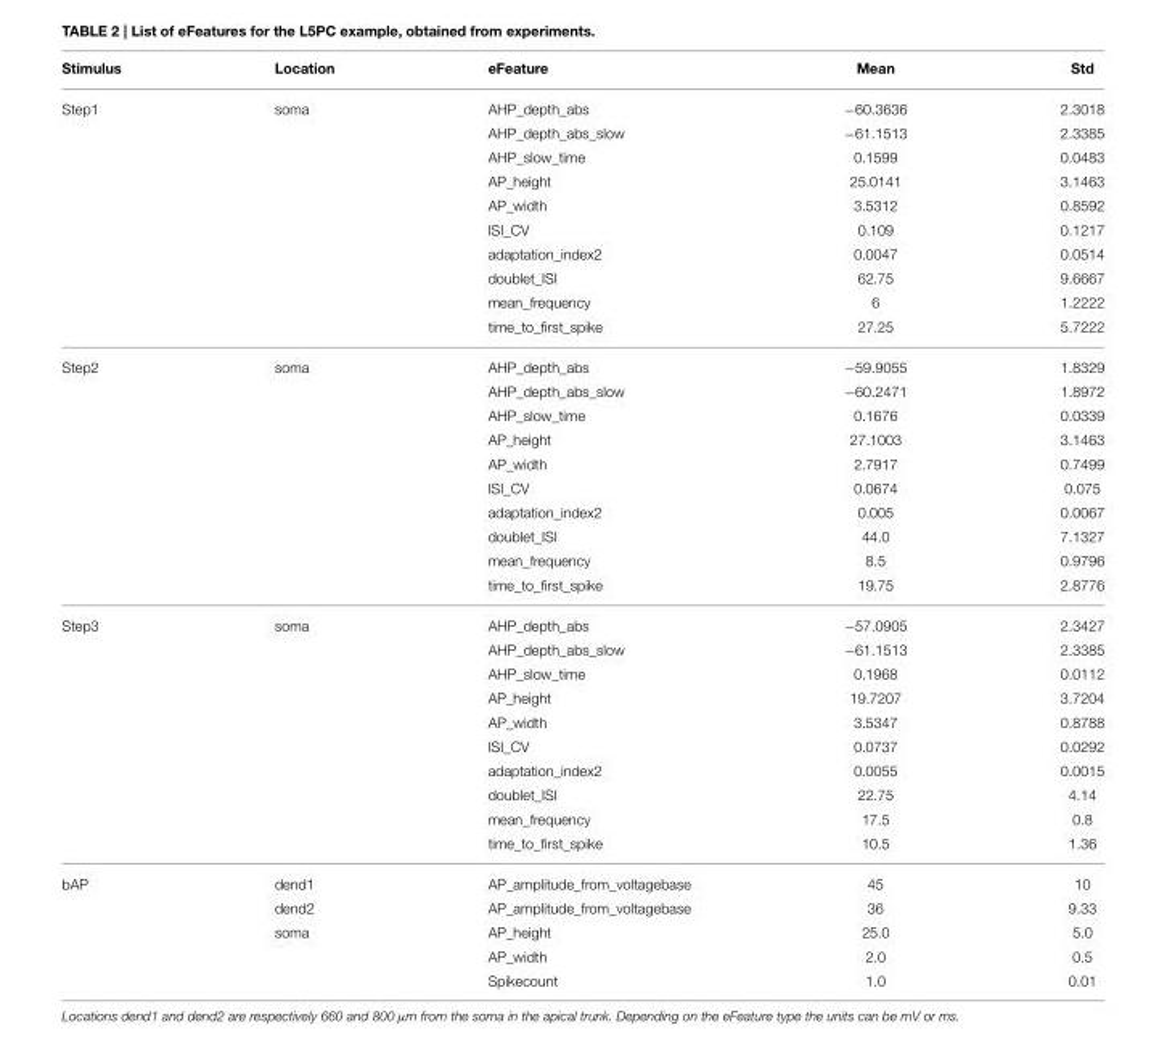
<table><thead><tr><td>Stimulus</td><td>Location</td><td>eFeature</td><td>Mean</td><td>Std</td></tr></thead><tbody><tr><td rowspan="10">Step1</td><td>soma</td><td>AHP_depth_abs</td><td>−60.3636</td><td>2.3018</td></tr><tr><td></td><td>AHP_depth_abs_slow</td><td>−61.1513</td><td>2.3385</td></tr><tr><td></td><td>AHP_slow_time</td><td>0.1599</td><td>0.0483</td></tr><tr><td></td><td>AP_height</td><td>25.0141</td><td>3.1463</td></tr><tr><td></td><td>AP_width</td><td>3.5312</td><td>0.8592</td></tr><tr><td></td><td>ISI_CV</td><td>0.109</td><td>0.1217</td></tr><tr><td></td><td>adaptation_index2</td><td>0.0047</td><td>0.0514</td></tr><tr><td></td><td>doublet_ISI</td><td>62.75</td><td>9.6667</td></tr><tr><td></td><td>mean_frequency</td><td>6</td><td>1.2222</td></tr><tr><td></td><td>time_to_first_spike</td><td>27.25</td><td>5.7222</td></tr><tr><td rowspan="10">Step2</td><td>soma</td><td>AHP_depth_abs</td><td>−59.9055</td><td>1.8329</td></tr><tr><td></td><td>AHP_depth_abs_slow</td><td>−60.2471</td><td>1.8972</td></tr><tr><td></td><td>AHP_slow_time</td><td>0.1676</td><td>0.0339</td></tr><tr><td></td><td>AP_height</td><td>27.1003</td><td>3.1463</td></tr><tr><td></td><td>AP_width</td><td>2.7917</td><td>0.7499</td></tr><tr><td></td><td>ISI_CV</td><td>0.0674</td><td>0.075</td></tr><tr><td></td><td>adaptation_index2</td><td>0.005</td><td>0.0067</td></tr><tr><td></td><td>doublet_ISI</td><td>44.0</td><td>7.1327</td></tr><tr><td></td><td>mean_frequency</td><td>8.5</td><td>0.9796</td></tr><tr><td></td><td>time_to_first_spike</td><td>19.75</td><td>2.8776</td></tr><tr><td rowspan="10">Step3</td><td>soma</td><td>AHP_depth_abs</td><td>−57.0905</td><td>2.3427</td></tr><tr><td></td><td>AHP_depth_abs_slow</td><td>−61.1513</td><td>2.3385</td></tr><tr><td></td><td>AHP_slow_time</td><td>0.1968</td><td>0.0112</td></tr><tr><td></td><td>AP_height</td><td>19.7207</td><td>3.7204</td></tr><tr><td></td><td>AP_width</td><td>3.5347</td><td>0.8788</td></tr><tr><td></td><td>ISI_CV</td><td>0.0737</td><td>0.0292</td></tr><tr><td></td><td>adaptation_index2</td><td>0.0055</td><td>0.0015</td></tr><tr><td></td><td>doublet_ISI</td><td>22.75</td><td>4.14</td></tr><tr><td></td><td>mean_frequency</td><td>17.5</td><td>0.8</td></tr><tr><td></td><td>time_to_first_spike</td><td>10.5</td><td>1.36</td></tr><tr><td rowspan="5">bAP</td><td>dend1</td><td>AP_amplitude_from_voltagebase</td><td>45</td><td>10</td></tr><tr><td>dend2</td><td>AP_amplitude_from_voltagebase</td><td>36</td><td>9.33</td></tr><tr><td>soma</td><td>AP_height</td><td>25.0</td><td>5.0</td></tr><tr><td></td><td>AP_width</td><td>2.0</td><td>0.5</td></tr><tr><td></td><td>Spikecount</td><td>1.0</td><td>0.01</td></tr></tbody></table>